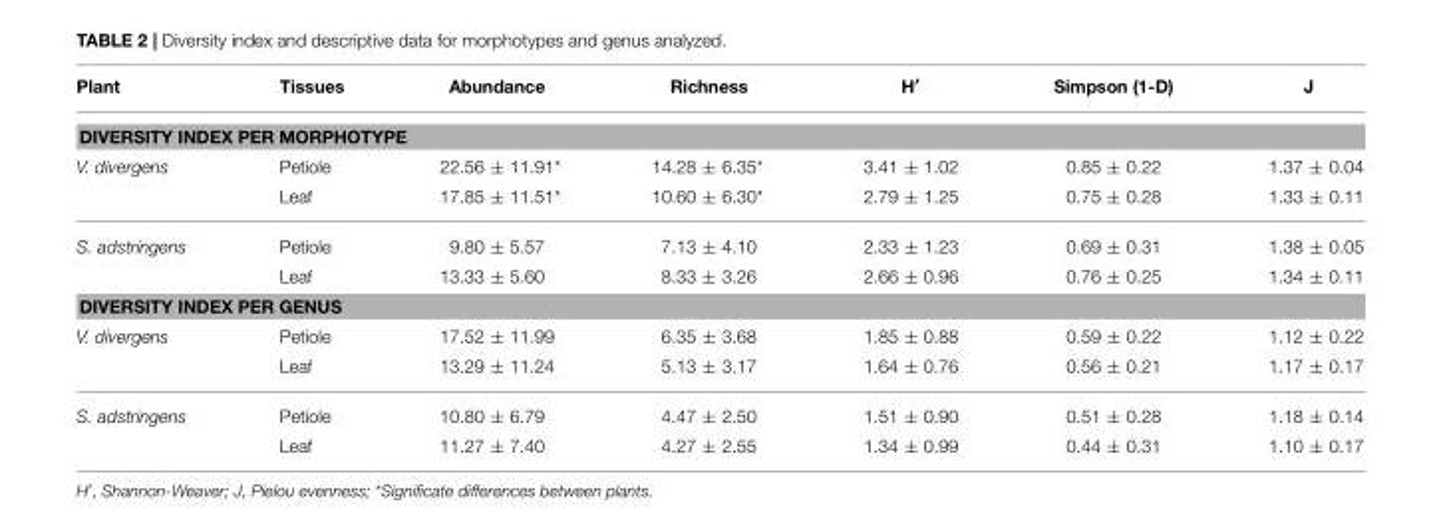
<table><thead><tr><td>Plant</td><td>Tissues</td><td>Abundance</td><td>Richness</td><td>H′</td><td>Simpson (1-D)</td><td>J</td></tr></thead><tbody><tr><td colspan="7">DIVERSITY INDEX PER MORPHOTYPE</td></tr><tr><td rowspan="2">V. divergens</td><td>Petiole</td><td>22.56 ± 11.91*</td><td>14.28 ± 6.35*</td><td>3.41 ± 1.02</td><td>0.85 ± 0.22</td><td>1.37 ± 0.04</td></tr><tr><td>Leaf</td><td>17.85 ± 11.51*</td><td>10.60 ± 6.30*</td><td>2.79 ± 1.25</td><td>0.75 ± 0.28</td><td>1.33 ± 0.11</td></tr><tr><td rowspan="2">S. adstringens</td><td>Petiole</td><td>9.80 ± 5.57</td><td>7.13 ± 4.10</td><td>2.33 ± 1.23</td><td>0.69 ± 0.31</td><td>1.38 ± 0.05</td></tr><tr><td>Leaf</td><td>13.33 ± 5.60</td><td>8.33 ± 3.26</td><td>2.66 ± 0.96</td><td>0.76 ± 0.25</td><td>1.34 ± 0.11</td></tr><tr><td colspan="7">DIVERSITY INDEX PER GENUS</td></tr><tr><td rowspan="2">V. divergens</td><td>Petiole</td><td>17.52 ± 11.99</td><td>6.35 ± 3.68</td><td>1.85 ± 0.88</td><td>0.59 ± 0.22</td><td>1.12 ± 0.22</td></tr><tr><td>Leaf</td><td>13.29 ± 11.24</td><td>5.13 ± 3.17</td><td>1.64 ± 0.76</td><td>0.56 ± 0.21</td><td>1.17 ± 0.17</td></tr><tr><td rowspan="2">S. adstringens</td><td>Petiole</td><td>10.80 ± 6.79</td><td>4.47 ± 2.50</td><td>1.51 ± 0.90</td><td>0.51 ± 0.28</td><td>1.18 ± 0.14</td></tr><tr><td>Leaf</td><td>11.27 ± 7.40</td><td>4.27 ± 2.55</td><td>1.34 ± 0.99</td><td>0.44 ± 0.31</td><td>1.10 ± 0.17</td></tr></tbody></table>